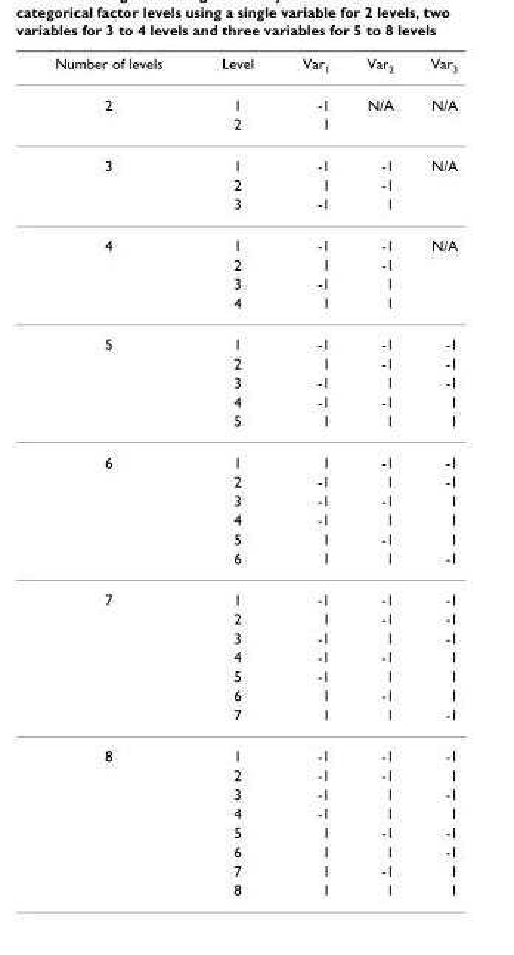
<table><thead><tr><td>Number of levels</td><td>Level</td><td>Var<sub>1</sub></td><td>Var<sub>2</sub></td><td>Var<sub>3</sub></td></tr></thead><tbody><tr><td rowspan="2">2</td><td>1</td><td>-1</td><td>N/A</td><td>N/A</td></tr><tr><td>2</td><td>1</td><td></td><td></td></tr><tr><td rowspan="3">3</td><td>1</td><td>-1</td><td>-1</td><td>N/A</td></tr><tr><td>2</td><td>1</td><td>-1</td><td></td></tr><tr><td>3</td><td>-1</td><td>1</td><td></td></tr><tr><td rowspan="4">4</td><td>1</td><td>-1</td><td>-1</td><td>N/A</td></tr><tr><td>2</td><td>1</td><td>-1</td><td></td></tr><tr><td>3</td><td>-1</td><td>1</td><td></td></tr><tr><td>4</td><td>1</td><td>1</td><td></td></tr><tr><td rowspan="5">5</td><td>1</td><td>-1</td><td>-1</td><td>-1</td></tr><tr><td>2</td><td>1</td><td>-1</td><td>-1</td></tr><tr><td>3</td><td>-1</td><td>1</td><td>-1</td></tr><tr><td>4</td><td>-1</td><td>-1</td><td>1</td></tr><tr><td>5</td><td>1</td><td>1</td><td>1</td></tr><tr><td rowspan="6">6</td><td>1</td><td>1</td><td>-1</td><td>-1</td></tr><tr><td>2</td><td>-1</td><td>1</td><td>-1</td></tr><tr><td>3</td><td>-1</td><td>-1</td><td>1</td></tr><tr><td>4</td><td>-1</td><td>1</td><td>1</td></tr><tr><td>5</td><td>1</td><td>-1</td><td>1</td></tr><tr><td>6</td><td>1</td><td>1</td><td>-1</td></tr><tr><td rowspan="7">7</td><td>1</td><td>-1</td><td>-1</td><td>-1</td></tr><tr><td>2</td><td>1</td><td>-1</td><td>-1</td></tr><tr><td>3</td><td>-1</td><td>1</td><td>-1</td></tr><tr><td>4</td><td>-1</td><td>-1</td><td>1</td></tr><tr><td>5</td><td>-1</td><td>1</td><td>1</td></tr><tr><td>6</td><td>1</td><td>-1</td><td>1</td></tr><tr><td>7</td><td>1</td><td>1</td><td>-1</td></tr><tr><td rowspan="8">8</td><td>1</td><td>-1</td><td>-1</td><td>-1</td></tr><tr><td>2</td><td>-1</td><td>-1</td><td>1</td></tr><tr><td>3</td><td>-1</td><td>1</td><td>-1</td></tr><tr><td>4</td><td>-1</td><td>1</td><td>1</td></tr><tr><td>5</td><td>1</td><td>-1</td><td>-1</td></tr><tr><td>6</td><td>1</td><td>1</td><td>-1</td></tr><tr><td>7</td><td>1</td><td>-1</td><td>1</td></tr><tr><td>8</td><td>1</td><td>1</td><td>1</td></tr></tbody></table>